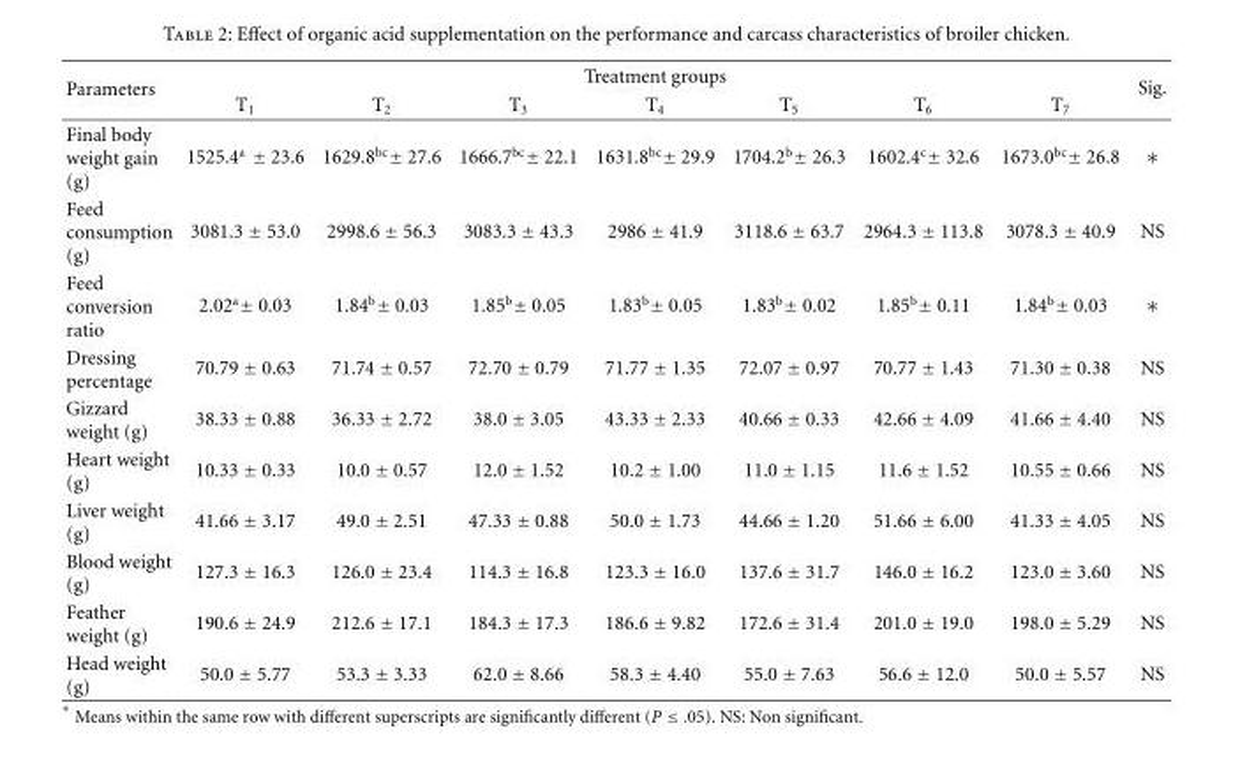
<table><thead><tr><td rowspan="2">Parameters</td><td colspan="7">Treatment groups</td><td rowspan="2">Sig.</td></tr><tr><td>T<sub>1</sub></td><td>T<sub>2</sub></td><td>T<sub>3</sub></td><td>T<sub>4</sub></td><td>T<sub>5</sub></td><td>T<sub>6</sub></td><td>T<sub>7</sub></td></tr></thead><tbody><tr><td>Final body weight gain (g)</td><td>1525.4<sup>a</sup> ± 23.6</td><td>1629.8<sup>bc</sup>± 27.6</td><td>1666.7<sup>bc</sup>± 22.1</td><td>1631.8<sup>bc</sup>± 29.9</td><td>1704.2<sup>b</sup>± 26.3</td><td>1602.4<sup>c</sup>± 32.6</td><td>1673.0<sup>bc</sup>± 26.8</td><td>∗</td></tr><tr><td>Feed consumption (g)</td><td>3081.3 ± 53.0</td><td>2998.6 ± 56.3</td><td>3083.3 ± 43.3</td><td>2986 ± 41.9</td><td>3118.6 ± 63.7</td><td>2964.3 ± 113.8</td><td>3078.3 ± 40.9</td><td>NS</td></tr><tr><td>Feed conversion ratio</td><td>2.02<sup>a</sup>± 0.03</td><td>1.84<sup>b</sup>± 0.03</td><td>1.85<sup>b</sup>± 0.05</td><td>1.83<sup>b</sup>± 0.05</td><td>1.83<sup>b</sup>± 0.02</td><td>1.85<sup>b</sup>± 0.11</td><td>1.84<sup>b</sup>± 0.03</td><td>∗</td></tr><tr><td>Dressing percentage</td><td>70.79 ± 0.63</td><td>71.74 ± 0.57</td><td>72.70 ± 0.79</td><td>71.77 ± 1.35</td><td>72.07 ± 0.97</td><td>70.77 ± 1.43</td><td>71.30 ± 0.38</td><td>NS</td></tr><tr><td>Gizzard weight (g)</td><td>38.33 ± 0.88</td><td>36.33 ± 2.72</td><td>38.0 ± 3.05</td><td>43.33 ± 2.33</td><td>40.66 ± 0.33</td><td>42.66 ± 4.09</td><td>41.66 ± 4.40</td><td>NS</td></tr><tr><td>Heart weight (g)</td><td>10.33 ± 0.33</td><td>10.0 ± 0.57</td><td>12.0 ± 1.52</td><td>10.2 ± 1.00</td><td>11.0 ± 1.15</td><td>11.6 ± 1.52</td><td>10.55 ± 0.66</td><td>NS</td></tr><tr><td>Liver weight (g)</td><td>41.66 ± 3.17</td><td>49.0 ± 2.51</td><td>47.33 ± 0.88</td><td>50.0 ± 1.73</td><td>44.66 ± 1.20</td><td>51.66 ± 6.00</td><td>41.33 ± 4.05</td><td>NS</td></tr><tr><td>Blood weight (g)</td><td>127.3 ± 16.3</td><td>126.0 ± 23.4</td><td>114.3 ± 16.8</td><td>123.3 ± 16.0</td><td>137.6 ± 31.7</td><td>146.0 ± 16.2</td><td>123.0 ± 3.60</td><td>NS</td></tr><tr><td>Feather weight (g)</td><td>190.6 ± 24.9</td><td>212.6 ± 17.1</td><td>184.3 ± 17.3</td><td>186.6 ± 9.82</td><td>172.6 ± 31.4</td><td>201.0 ± 19.0</td><td>198.0 ± 5.29</td><td>NS</td></tr><tr><td>Head weight (g)</td><td>50.0 ± 5.77</td><td>53.3 ± 3.33</td><td>62.0 ± 8.66</td><td>58.3 ± 4.40</td><td>55.0 ± 7.63</td><td>56.6 ± 12.0</td><td>50.0 ± 5.57</td><td>NS</td></tr></tbody></table>